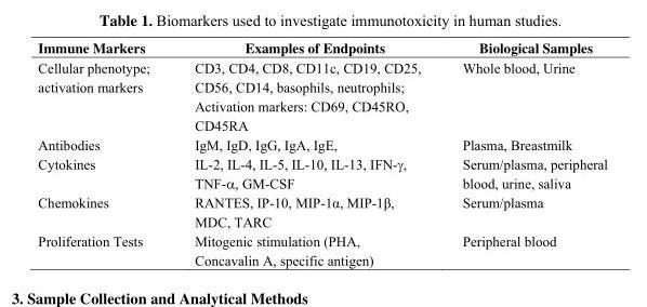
<table><thead><tr><td>Immune Markers</td><td>Examples of Endpoints</td><td>Biological Samples</td></tr></thead><tbody><tr><td>Cellular phenotype; activation markers</td><td>CD3, CD4, CD8, CD11c, CD19, CD25, CD56, CD14, basophils, neutrophils; Activation markers: CD69, CD45RO, CD45RA</td><td>Whole blood, Urine</td></tr><tr><td>Antibodies</td><td>IgM, IgD, IgG, IgA, IgE,</td><td>Plasma, Breastmilk</td></tr><tr><td>Cytokines</td><td>IL-2, IL-4, IL-5, IL-10, IL-13, IFN-γ, TNF-α, GM-CSF</td><td>Serum/plasma, peripheral blood, urine, saliva</td></tr><tr><td>Chemokines</td><td>RANTES, IP-10, MIP-1α, MIP-1β, MDC, TARC</td><td>Serum/plasma</td></tr><tr><td>Proliferation Tests</td><td>Mitogenic stimulation (PHA, Concavalin A, specific antigen)</td><td>Peripheral blood</td></tr></tbody></table>